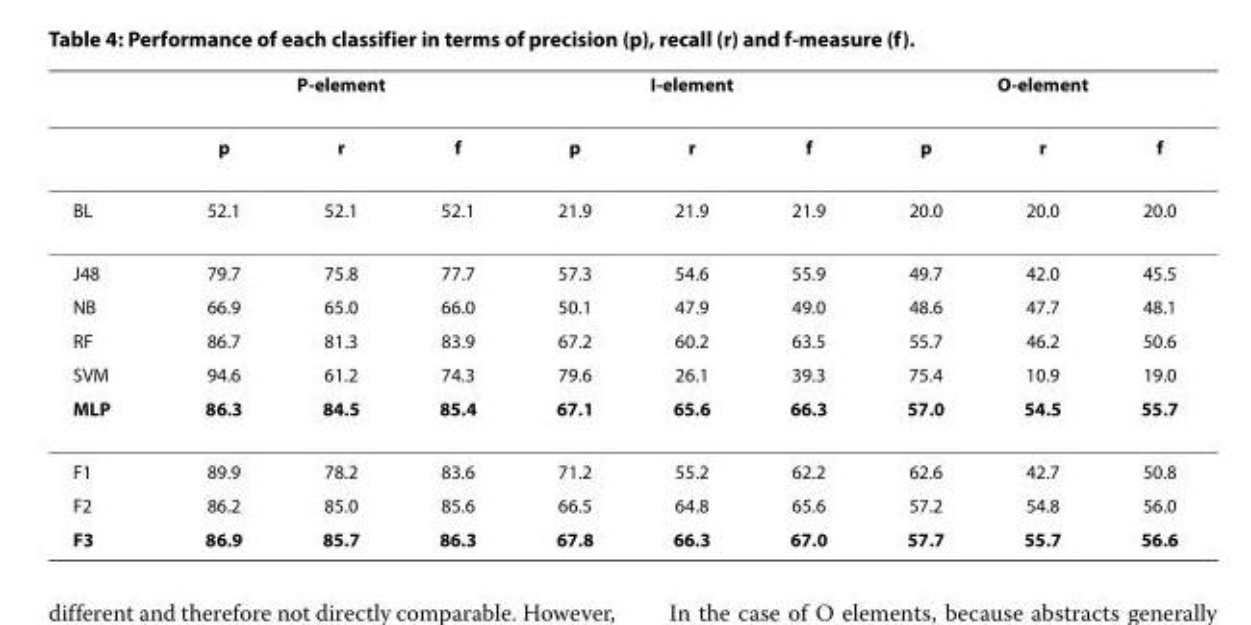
<table><thead><tr><td rowspan="2"></td><td colspan="3">P-element</td><td colspan="3">I-element</td><td colspan="3">O-element</td></tr><tr><td>p</td><td>r</td><td>f</td><td>p</td><td>r</td><td>f</td><td>p</td><td>r</td><td>f</td></tr></thead><tbody><tr><td>BL</td><td>52.1</td><td>52.1</td><td>52.1</td><td>21.9</td><td>21.9</td><td>21.9</td><td>20.0</td><td>20.0</td><td>20.0</td></tr><tr><td>J48</td><td>79.7</td><td>75.8</td><td>77.7</td><td>57.3</td><td>54.6</td><td>55.9</td><td>49.7</td><td>42.0</td><td>45.5</td></tr><tr><td>NB</td><td>66.9</td><td>65.0</td><td>66.0</td><td>50.1</td><td>47.9</td><td>49.0</td><td>48.6</td><td>47.7</td><td>48.1</td></tr><tr><td>RF</td><td>86.7</td><td>81.3</td><td>83.9</td><td>67.2</td><td>60.2</td><td>63.5</td><td>55.7</td><td>46.2</td><td>50.6</td></tr><tr><td>SVM</td><td>94.6</td><td>61.2</td><td>74.3</td><td>79.6</td><td>26.1</td><td>39.3</td><td>75.4</td><td>10.9</td><td>19.0</td></tr><tr><td>MLP</td><td>86.3</td><td>84.5</td><td>85.4</td><td>67.1</td><td>65.6</td><td>66.3</td><td>57.0</td><td>54.5</td><td>55.7</td></tr><tr><td>F1</td><td>89.9</td><td>78.2</td><td>83.6</td><td>71.2</td><td>55.2</td><td>62.2</td><td>62.6</td><td>42.7</td><td>50.8</td></tr><tr><td>F2</td><td>86.2</td><td>85.0</td><td>85.6</td><td>66.5</td><td>64.8</td><td>65.6</td><td>57.2</td><td>54.8</td><td>56.0</td></tr><tr><td>F3</td><td>86.9</td><td>85.7</td><td>86.3</td><td>67.8</td><td>66.3</td><td>67.0</td><td>57.7</td><td>55.7</td><td>56.6</td></tr></tbody></table>